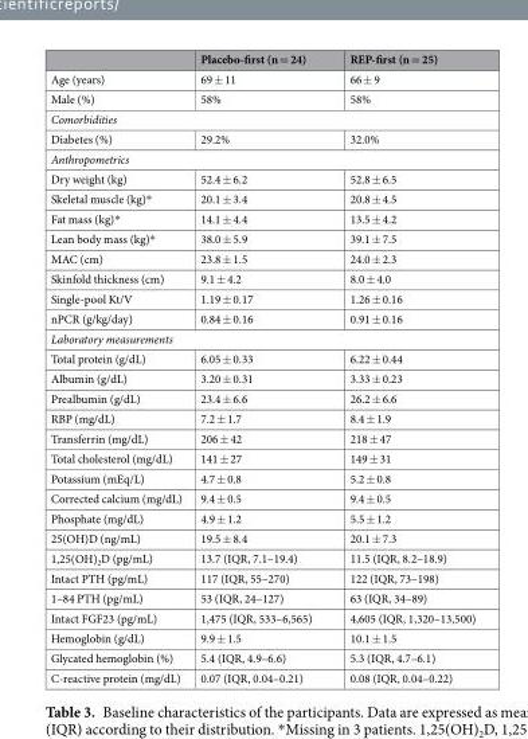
<table><thead><tr><td></td><td>Placebo-first (n = 24)</td><td>REP-first (n = 25)</td></tr></thead><tbody><tr><td>Age (years)</td><td>69 ± 11</td><td>66 ± 9</td></tr><tr><td>Male (%)</td><td>58%</td><td>58%</td></tr><tr><td colspan="3">Comorbidities</td></tr><tr><td>Diabetes (%)</td><td>29.2%</td><td>32.0%</td></tr><tr><td colspan="3">Anthropometrics</td></tr><tr><td>Dry weight (kg)</td><td>52.4 ± 6.2</td><td>52.8 ± 6.5</td></tr><tr><td>Skeletal muscle (kg)*</td><td>20.1 ± 3.4</td><td>20.8 ± 4.5</td></tr><tr><td>Fat mass (kg)*</td><td>14.1 ± 4.4</td><td>13.5 ± 4.2</td></tr><tr><td>Lean body mass (kg)*</td><td>38.0 ± 5.9</td><td>39.1 ± 7.5</td></tr><tr><td>MAC (cm)</td><td>23.8 ± 1.5</td><td>24.0 ± 2.3</td></tr><tr><td>Skinfold thickness (cm)</td><td>9.1 ± 4.2</td><td>8.0 ± 4.0</td></tr><tr><td>Single-pool Kt/V</td><td>1.19 ± 0.17</td><td>1.26 ± 0.16</td></tr><tr><td>nPCR (g/kg/day)</td><td>0.84 ± 0.16</td><td>0.91 ± 0.16</td></tr><tr><td colspan="3">Laboratory measurements</td></tr><tr><td>Total protein (g/dL)</td><td>6.05 ± 0.33</td><td>6.22 ± 0.44</td></tr><tr><td>Albumin (g/dL)</td><td>3.20 ± 0.31</td><td>3.33 ± 0.23</td></tr><tr><td>Prealbumin (g/dL)</td><td>23.4 ± 6.6</td><td>26.2 ± 6.6</td></tr><tr><td>RBP (mg/dL)</td><td>7.2 ± 1.7</td><td>8.4 ± 1.9</td></tr><tr><td>Transferrin (mg/dL)</td><td>206 ± 42</td><td>218 ± 47</td></tr><tr><td>Total cholesterol (mg/dL)</td><td>141 ± 27</td><td>149 ± 31</td></tr><tr><td>Potassium (mEq/L)</td><td>4.7 ± 0.8</td><td>5.2 ± 0.8</td></tr><tr><td>Corrected calcium (mg/dL)</td><td>9.4 ± 0.5</td><td>9.4 ± 0.5</td></tr><tr><td>Phosphate (mg/dL)</td><td>4.9 ± 1.2</td><td>5.5 ± 1.2</td></tr><tr><td>25(OH)D (ng/mL)</td><td>19.5 ± 8.4</td><td>20.1 ± 7.3</td></tr><tr><td>1,25(OH)<sub>2</sub>D (pg/mL)</td><td>13.7 (IQR, 7.1–19.4)</td><td>11.5 (IQR, 8.2–18.9)</td></tr><tr><td>Intact PTH (pg/mL)</td><td>117 (IQR, 55–270)</td><td>122 (IQR, 73–198)</td></tr><tr><td>1–84 PTH (pg/mL)</td><td>53 (IQR, 24–127)</td><td>63 (IQR, 34–89)</td></tr><tr><td>Intact FGF23 (pg/mL)</td><td>1,475 (IQR, 533–6,565)</td><td>4,605 (IQR, 1,320–13,500)</td></tr><tr><td>Hemoglobin (g/dL)</td><td>9.9 ± 1.5</td><td>10.1 ± 1.5</td></tr><tr><td>Glycated hemoglobin (%)</td><td>5.4 (IQR, 4.9–6.6)</td><td>5.3 (IQR, 4.7–6.1)</td></tr><tr><td>C-reactive protein (mg/dL)</td><td>0.07 (IQR, 0.04–0.21)</td><td>0.08 (IQR, 0.04–0.22)</td></tr></tbody></table>